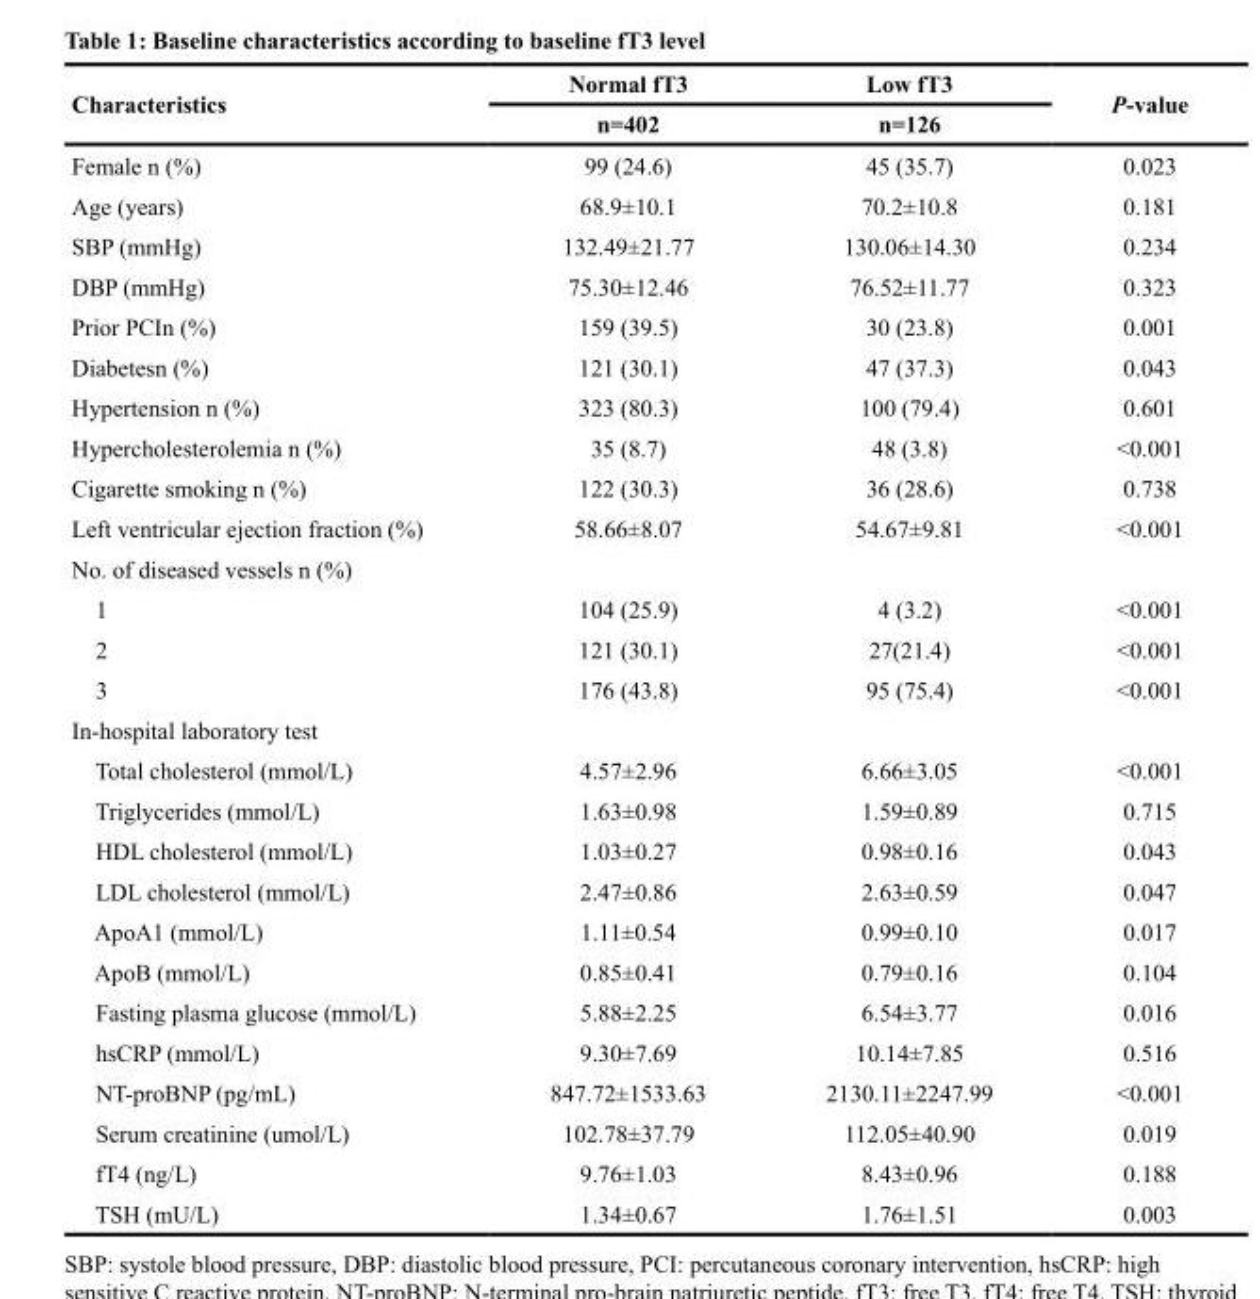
<table><thead><tr><td rowspan="2">Characteristics</td><td rowspan="2">Normal fT3 n=402</td><td rowspan="2">Low fT3 n=126</td><td rowspan="2">P-value</td></tr><tr></tr></thead><tbody><tr><td>Female n (%)</td><td>99 (24.6)</td><td>45 (35.7)</td><td>0.023</td></tr><tr><td>Age (years)</td><td>68.9±10.1</td><td>70.2±10.8</td><td>0.181</td></tr><tr><td>SBP (mmHg)</td><td>132.49±21.77</td><td>130.06±14.30</td><td>0.234</td></tr><tr><td>DBP (mmHg)</td><td>75.30±12.46</td><td>76.52±11.77</td><td>0.323</td></tr><tr><td>Prior PCIn (%)</td><td>159 (39.5)</td><td>30 (23.8)</td><td>0.001</td></tr><tr><td>Diabetesn (%)</td><td>121 (30.1)</td><td>47 (37.3)</td><td>0.043</td></tr><tr><td>Hypertension n (%)</td><td>323 (80.3)</td><td>100 (79.4)</td><td>0.601</td></tr><tr><td>Hypercholesterolemia n (%)</td><td>35 (8.7)</td><td>48 (3.8)</td><td>&lt;0.001</td></tr><tr><td>Cigarette smoking n (%)</td><td>122 (30.3)</td><td>36 (28.6)</td><td>0.738</td></tr><tr><td>Left ventricular ejection fraction (%)</td><td>58.66±8.07</td><td>54.67±9.81</td><td>&lt;0.001</td></tr><tr><td colspan="4">No. of diseased vessels n (%)</td></tr><tr><td>1</td><td>104 (25.9)</td><td>4 (3.2)</td><td>&lt;0.001</td></tr><tr><td>2</td><td>121 (30.1)</td><td>27(21.4)</td><td>&lt;0.001</td></tr><tr><td>3</td><td>176 (43.8)</td><td>95 (75.4)</td><td>&lt;0.001</td></tr><tr><td colspan="4">In-hospital laboratory test</td></tr><tr><td>Total cholesterol (mmol/L)</td><td>4.57±2.96</td><td>6.66±3.05</td><td>&lt;0.001</td></tr><tr><td>Triglycerides (mmol/L)</td><td>1.63±0.98</td><td>1.59±0.89</td><td>0.715</td></tr><tr><td>HDL cholesterol (mmol/L)</td><td>1.03±0.27</td><td>0.98±0.16</td><td>0.043</td></tr><tr><td>LDL cholesterol (mmol/L)</td><td>2.47±0.86</td><td>2.63±0.59</td><td>0.047</td></tr><tr><td>ApoA1 (mmol/L)</td><td>1.11±0.54</td><td>0.99±0.10</td><td>0.017</td></tr><tr><td>ApoB (mmol/L)</td><td>0.85±0.41</td><td>0.79±0.16</td><td>0.104</td></tr><tr><td>Fasting plasma glucose (mmol/L)</td><td>5.88±2.25</td><td>6.54±3.77</td><td>0.016</td></tr><tr><td>hsCRP (mmol/L)</td><td>9.30±7.69</td><td>10.14±7.85</td><td>0.516</td></tr><tr><td>NT-proBNP (pg/mL)</td><td>847.72±1533.63</td><td>2130.11±2247.99</td><td>&lt;0.001</td></tr><tr><td>Serum creatinine (umol/L)</td><td>102.78±37.79</td><td>112.05±40.90</td><td>0.019</td></tr><tr><td>fT4 (ng/L)</td><td>9.76±1.03</td><td>8.43±0.96</td><td>0.188</td></tr><tr><td>TSH (mU/L)</td><td>1.34±0.67</td><td>1.76±1.51</td><td>0.003</td></tr></tbody></table>